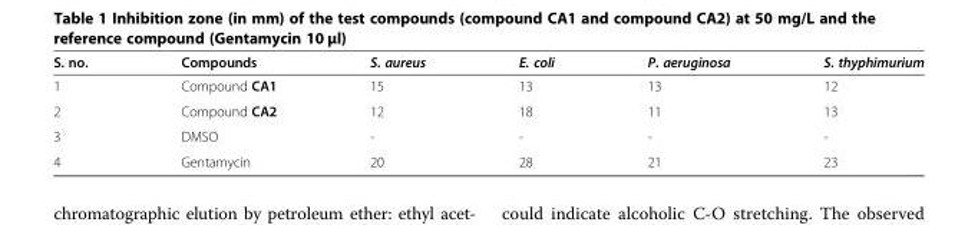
<table><thead><tr><td>S. no.</td><td>Compounds</td><td>S. aureus</td><td>E. coli</td><td>P. aeruginosa</td><td>S. thyphimurium</td></tr></thead><tbody><tr><td>1</td><td>Compound CA1</td><td>15</td><td>13</td><td>13</td><td>12</td></tr><tr><td>2</td><td>Compound CA2</td><td>12</td><td>18</td><td>11</td><td>13</td></tr><tr><td>3</td><td>DMSO</td><td>-</td><td>-</td><td>-</td><td>-</td></tr><tr><td>4</td><td>Gentamycin</td><td>20</td><td>28</td><td>21</td><td>23</td></tr></tbody></table>